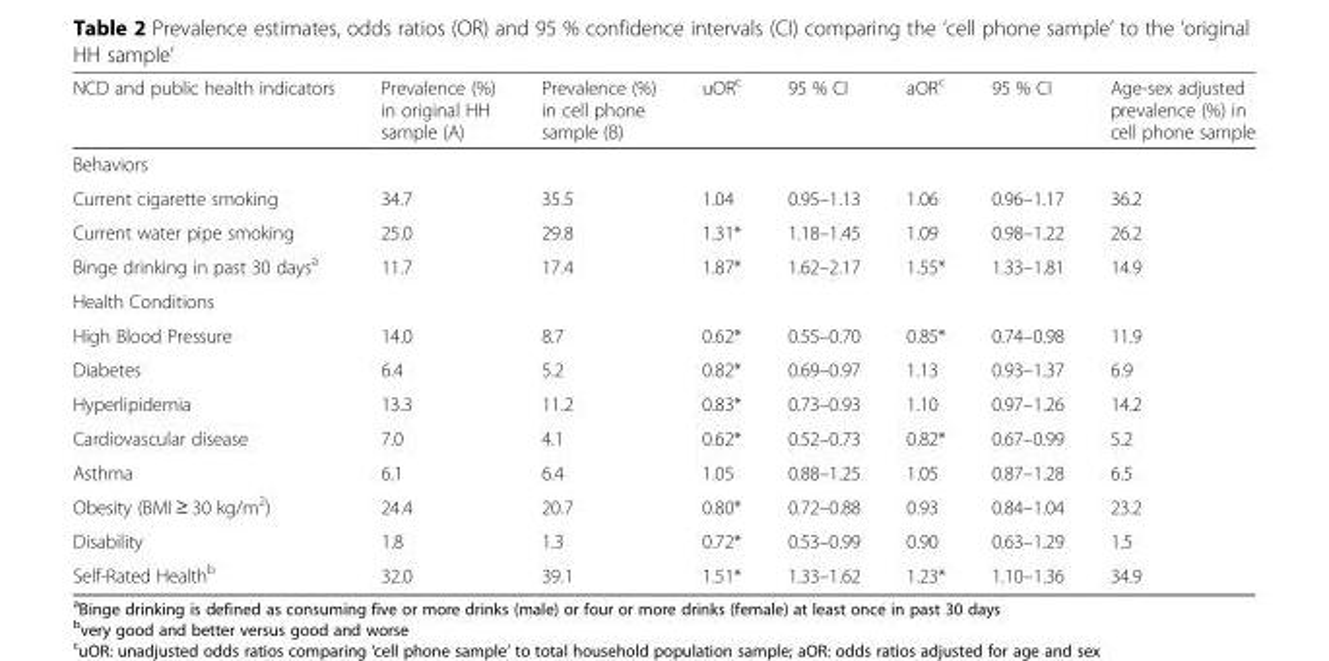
<table><thead><tr><td>NCD and public health indicators</td><td>Prevalence (%) in original HH sample (A)</td><td>Prevalence (%) in cell phone sample (B)</td><td>uOR<sup>c</sup></td><td>95 % CI</td><td>aOR<sup>c</sup></td><td>95 % CI</td><td>Age-sex adjusted prevalence (%) in cell phone sample</td></tr></thead><tbody><tr><td colspan="8">Behaviors</td></tr><tr><td>Current cigarette smoking</td><td>34.7</td><td>35.5</td><td>1.04</td><td>0.95–1.13</td><td>1.06</td><td>0.96–1.17</td><td>36.2</td></tr><tr><td>Current water pipe smoking</td><td>25.0</td><td>29.8</td><td>1.31*</td><td>1.18–1.45</td><td>1.09</td><td>0.98–1.22</td><td>26.2</td></tr><tr><td>Binge drinking in past 30 days<sup>a</sup></td><td>11.7</td><td>17.4</td><td>1.87*</td><td>1.62–2.17</td><td>1.55*</td><td>1.33–1.81</td><td>14.9</td></tr><tr><td colspan="8">Health Conditions</td></tr><tr><td>High Blood Pressure</td><td>14.0</td><td>8.7</td><td>0.62*</td><td>0.55–0.70</td><td>0.85*</td><td>0.74–0.98</td><td>11.9</td></tr><tr><td>Diabetes</td><td>6.4</td><td>5.2</td><td>0.82*</td><td>0.69–0.97</td><td>1.13</td><td>0.93–1.37</td><td>6.9</td></tr><tr><td>Hyperlipidemia</td><td>13.3</td><td>11.2</td><td>0.83*</td><td>0.73–0.93</td><td>1.10</td><td>0.97–1.26</td><td>14.2</td></tr><tr><td>Cardiovascular disease</td><td>7.0</td><td>4.1</td><td>0.62*</td><td>0.52–0.73</td><td>0.82*</td><td>0.67–0.99</td><td>5.2</td></tr><tr><td>Asthma</td><td>6.1</td><td>6.4</td><td>1.05</td><td>0.88–1.25</td><td>1.05</td><td>0.87–1.28</td><td>6.5</td></tr><tr><td>Obesity (BMI ≥ 30 kg/m<sup>2</sup>)</td><td>24.4</td><td>20.7</td><td>0.80*</td><td>0.72–0.88</td><td>0.93</td><td>0.84–1.04</td><td>23.2</td></tr><tr><td>Disability</td><td>1.8</td><td>1.3</td><td>0.72*</td><td>0.53–0.99</td><td>0.90</td><td>0.63–1.29</td><td>1.5</td></tr><tr><td>Self-Rated Health<sup>b</sup></td><td>32.0</td><td>39.1</td><td>1.51*</td><td>1.33–1.62</td><td>1.23*</td><td>1.10–1.36</td><td>34.9</td></tr></tbody></table>